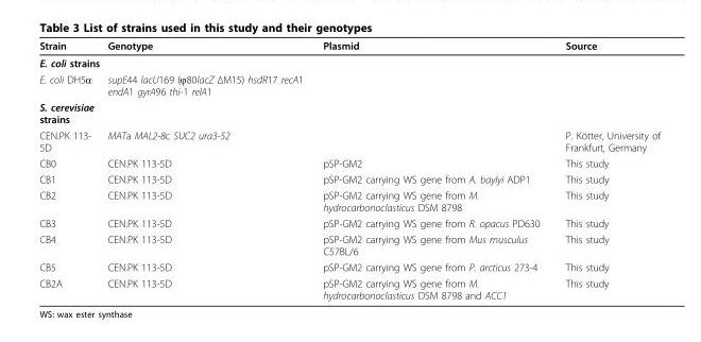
<table><thead><tr><td>Strain</td><td>Genotype</td><td>Plasmid</td><td>Source</td></tr></thead><tbody><tr><td colspan="4">E. coli strains</td></tr><tr><td>E. coli DH5α</td><td>supE44 lacU169 (ϕ80lacZ ΔM15) hsdR17 recA1 endA1 gyrA96 thi-1 relA1</td><td></td><td></td></tr><tr><td colspan="4">S. cerevisiae strains</td></tr><tr><td>CEN.PK 113- 5D</td><td>MATa MAL2-8c SUC2 ura3-52</td><td></td><td>P. Kötter, University of Frankfurt, Germany</td></tr><tr><td>CB0</td><td>CEN.PK 113-5D</td><td>pSP-GM2</td><td>This study</td></tr><tr><td>CB1</td><td>CEN.PK 113-5D</td><td>pSP-GM2 carrying WS gene from A. baylyi ADP1</td><td>This study</td></tr><tr><td>CB2</td><td>CEN.PK 113-5D</td><td>pSP-GM2 carrying WS gene from M. hydrocarbonoclasticus DSM 8798</td><td>This study</td></tr><tr><td>CB3</td><td>CEN.PK 113-5D</td><td>pSP-GM2 carrying WS gene from R. opacus PD630</td><td>This study</td></tr><tr><td>CB4</td><td>CEN.PK 113-5D</td><td>pSP-GM2 carrying WS gene from Mus musculus C57BL/6</td><td>This study</td></tr><tr><td>CB5</td><td>CEN.PK 113-5D</td><td>pSP-GM2 carrying WS gene from P. arcticus 273-4</td><td>This study</td></tr><tr><td>CB2A</td><td>CEN.PK 113-5D</td><td>pSP-GM2 carrying WS gene from M. hydrocarbonoclasticus DSM 8798 and ACC1</td><td>This study</td></tr></tbody></table>